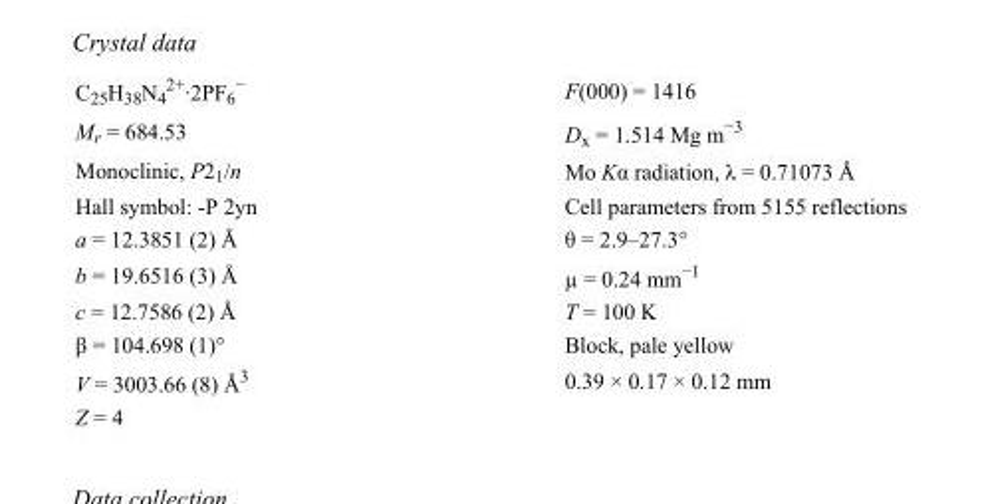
<table><tbody><tr><td>C<sub>25</sub>H<sub>38</sub>N<sub>4</sub> <sup>2+</sup>·2PF<sub>6</sub> <sup>−</sup></td><td>F(000) = 1416</td></tr><tr><td>M<sub>r</sub> = 684.53</td><td>D<sub>x</sub> = 1.514 Mg m<sup>−3</sup></td></tr><tr><td>Monoclinic, P2<sub>1</sub>/n</td><td>Mo Kα radiation, λ = 0.71073 Å</td></tr><tr><td>Hall symbol: -P 2yn</td><td>Cell parameters from 5155 reflections</td></tr><tr><td>a = 12.3851 (2) Å</td><td>θ = 2.9–27.3°</td></tr><tr><td>b = 19.6516 (3) Å</td><td>µ = 0.24 mm<sup>−1</sup></td></tr><tr><td>c = 12.7586 (2) Å</td><td>T = 100 K</td></tr><tr><td>β = 104.698 (1)°</td><td>Block, pale yellow</td></tr><tr><td>V = 3003.66 (8) Å<sup>3</sup></td><td>0.39 × 0.17 × 0.12 mm</td></tr><tr><td>Z = 4</td><td></td></tr></tbody></table>